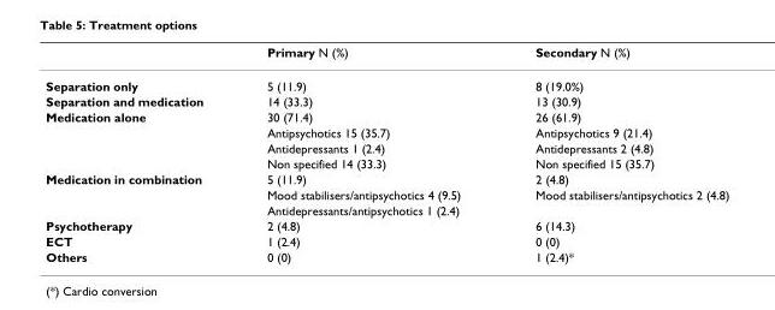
<table><thead><tr><td></td><td>Primary N (%)</td><td>Secondary N (%)</td></tr></thead><tbody><tr><td>Separation only</td><td>5 (11.9)</td><td>8 (19.0%)</td></tr><tr><td>Separation and medication</td><td>14 (33.3)</td><td>13 (30.9)</td></tr><tr><td rowspan="4">Medication alone</td><td>30 (71.4)</td><td>26 (61.9)</td></tr><tr><td>Antipsychotics 15 (35.7)</td><td>Antipsychotics 9 (21.4)</td></tr><tr><td>Antidepressants 1 (2.4)</td><td>Antidepressants 2 (4.8)</td></tr><tr><td>Non specified 14 (33.3)</td><td>Non specified 15 (35.7)</td></tr><tr><td rowspan="3">Medication in combination</td><td>5 (11.9)</td><td>2 (4.8)</td></tr><tr><td>Mood stabilisers/antipsychotics 4 (9.5)</td><td>Mood stabilisers/antipsychotics 2 (4.8)</td></tr><tr><td>Antidepressants/antipsychotics 1 (2.4)</td><td></td></tr><tr><td>Psychotherapy</td><td>2 (4.8)</td><td>6 (14.3)</td></tr><tr><td>ECT</td><td>1 (2.4)</td><td>0 (0)</td></tr><tr><td>Others</td><td>0 (0)</td><td>1 (2.4)*</td></tr></tbody></table>